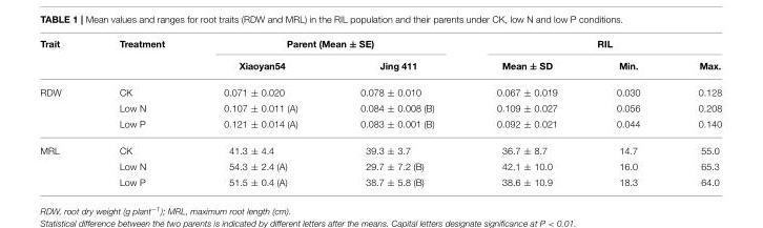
<table><thead><tr><td rowspan="2">Trait</td><td rowspan="2">Treatment</td><td colspan="2">Parent (Mean ± SE)</td><td colspan="3">RIL</td></tr><tr><td>Xiaoyan54</td><td>Jing 411</td><td>Mean ± SD</td><td>Min.</td><td>Max.</td></tr></thead><tbody><tr><td rowspan="3">RDW</td><td>CK</td><td>0.071 ± 0.020</td><td>0.078 ± 0.010</td><td>0.067 ± 0.019</td><td>0.030</td><td>0.128</td></tr><tr><td>Low N</td><td>0.107 ± 0.011 (A)</td><td>0.084 ± 0.008 (B)</td><td>0.109 ± 0.027</td><td>0.056</td><td>0.208</td></tr><tr><td>Low P</td><td>0.121 ± 0.014 (A)</td><td>0.083 ± 0.001 (B)</td><td>0.092 ± 0.021</td><td>0.044</td><td>0.140</td></tr><tr><td rowspan="3">MRL</td><td>CK</td><td>41.3 ± 4.4</td><td>39.3 ± 3.7</td><td>36.7 ± 8.7</td><td>14.7</td><td>55.0</td></tr><tr><td>Low N</td><td>54.3 ± 2.4 (A)</td><td>29.7 ± 7.2 (B)</td><td>42.1 ± 10.0</td><td>16.0</td><td>65.3</td></tr><tr><td>Low P</td><td>51.5 ± 0.4 (A)</td><td>38.7 ± 5.8 (B)</td><td>38.6 ± 10.9</td><td>18.3</td><td>64.0</td></tr></tbody></table>